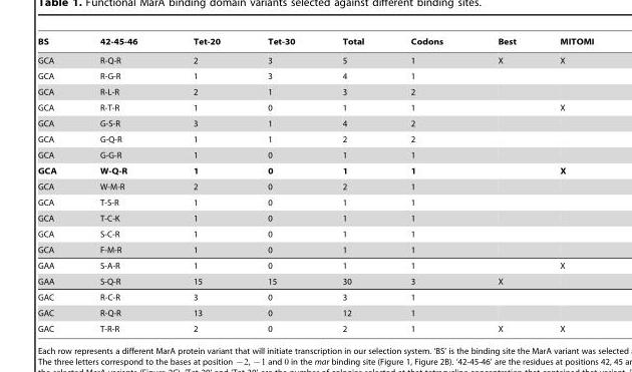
<table><thead><tr><td>BS</td><td>42-45-46</td><td>Tet-20</td><td>Tet-30</td><td>Total</td><td>Codons</td><td>Best</td><td>MITOMI</td></tr></thead><tbody><tr><td>GCA</td><td>R-Q-R</td><td>2</td><td>3</td><td>5</td><td>1</td><td>X</td><td>X</td></tr><tr><td>GCA</td><td>R-G-R</td><td>1</td><td>3</td><td>4</td><td>1</td><td></td><td></td></tr><tr><td>GCA</td><td>R-L-R</td><td>2</td><td>1</td><td>3</td><td>2</td><td></td><td></td></tr><tr><td>GCA</td><td>R-T-R</td><td>1</td><td>0</td><td>1</td><td>1</td><td></td><td>X</td></tr><tr><td>GCA</td><td>G-S-R</td><td>3</td><td>1</td><td>4</td><td>2</td><td></td><td></td></tr><tr><td>GCA</td><td>G-Q-R</td><td>1</td><td>1</td><td>2</td><td>2</td><td></td><td></td></tr><tr><td>GCA</td><td>G-G-R</td><td>1</td><td>0</td><td>1</td><td>1</td><td></td><td></td></tr><tr><td>GCA</td><td>W-Q-R</td><td>1</td><td>0</td><td>1</td><td>1</td><td></td><td>X</td></tr><tr><td>GCA</td><td>W-M-R</td><td>2</td><td>0</td><td>2</td><td>1</td><td></td><td></td></tr><tr><td>GCA</td><td>T-S-R</td><td>1</td><td>0</td><td>1</td><td>1</td><td></td><td></td></tr><tr><td>GCA</td><td>T-C-K</td><td>1</td><td>0</td><td>1</td><td>1</td><td></td><td></td></tr><tr><td>GCA</td><td>S-C-R</td><td>1</td><td>0</td><td>1</td><td>1</td><td></td><td></td></tr><tr><td>GCA</td><td>F-M-R</td><td>1</td><td>0</td><td>1</td><td>1</td><td></td><td></td></tr><tr><td>GAA</td><td>S-A-R</td><td>1</td><td>0</td><td>1</td><td>1</td><td></td><td>X</td></tr><tr><td>GAA</td><td>S-Q-R</td><td>15</td><td>15</td><td>30</td><td>3</td><td>X</td><td></td></tr><tr><td>GAC</td><td>R-C-R</td><td>3</td><td>0</td><td>3</td><td>1</td><td></td><td></td></tr><tr><td>GAC</td><td>R-Q-R</td><td>13</td><td>0</td><td>12</td><td>1</td><td></td><td></td></tr><tr><td>GAC</td><td>T-R-R</td><td>2</td><td>0</td><td>2</td><td>1</td><td>X</td><td>X</td></tr></tbody></table>